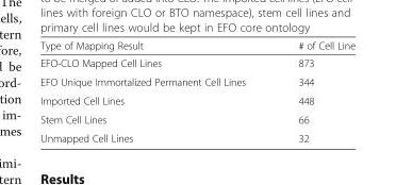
<table><thead><tr><td>Type of Mapping Result</td><td># of Cell Line</td></tr></thead><tbody><tr><td>EFO-CLO Mapped Cell Lines</td><td>873</td></tr><tr><td>EFO Unique Immortalized Permanent Cell Lines</td><td>344</td></tr><tr><td>Imported Cell Lines</td><td>448</td></tr><tr><td>Stem Cell Lines</td><td>66</td></tr><tr><td>Unmapped Cell Lines</td><td>32</td></tr></tbody></table>